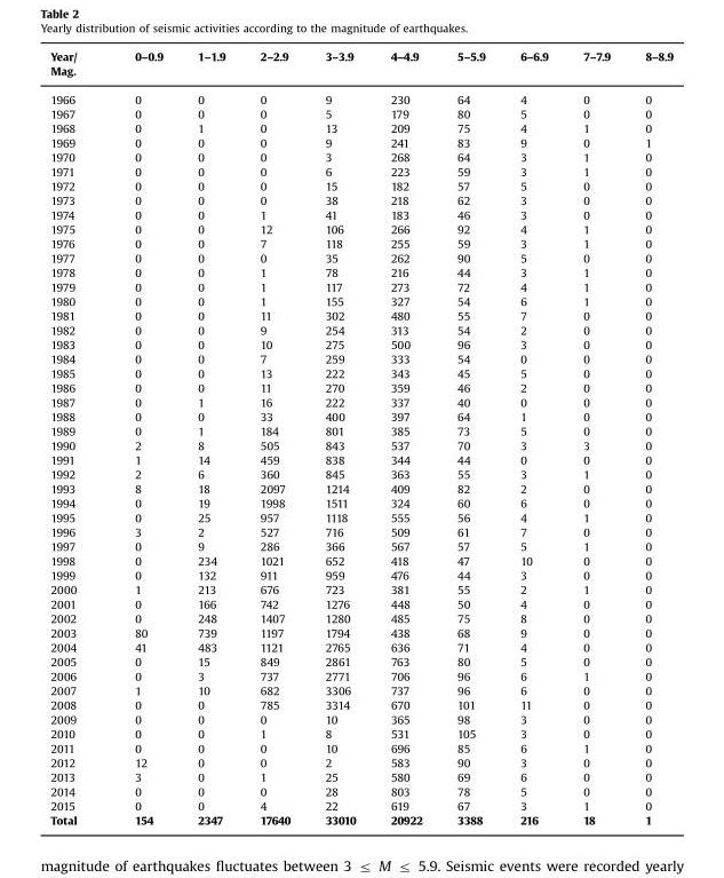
<table><thead><tr><td>Year/ Mag.</td><td>0–0.9</td><td>1–1.9</td><td>2–2.9</td><td>3–3.9</td><td>4–4.9</td><td>5–5.9</td><td>6–6.9</td><td>7–7.9</td><td>8–8.9</td></tr></thead><tbody><tr><td>1966</td><td>0</td><td>0</td><td>0</td><td>9</td><td>230</td><td>64</td><td>4</td><td>0</td><td>0</td></tr><tr><td>1967</td><td>0</td><td>0</td><td>0</td><td>5</td><td>179</td><td>80</td><td>5</td><td>0</td><td>0</td></tr><tr><td>1968</td><td>0</td><td>1</td><td>0</td><td>13</td><td>209</td><td>75</td><td>4</td><td>1</td><td>0</td></tr><tr><td>1969</td><td>0</td><td>0</td><td>0</td><td>9</td><td>241</td><td>83</td><td>9</td><td>0</td><td>1</td></tr><tr><td>1970</td><td>0</td><td>0</td><td>0</td><td>3</td><td>268</td><td>64</td><td>3</td><td>1</td><td>0</td></tr><tr><td>1971</td><td>0</td><td>0</td><td>0</td><td>6</td><td>223</td><td>59</td><td>3</td><td>1</td><td>0</td></tr><tr><td>1972</td><td>0</td><td>0</td><td>0</td><td>15</td><td>182</td><td>57</td><td>5</td><td>0</td><td>0</td></tr><tr><td>1973</td><td>0</td><td>0</td><td>0</td><td>38</td><td>218</td><td>62</td><td>3</td><td>0</td><td>0</td></tr><tr><td>1974</td><td>0</td><td>0</td><td>1</td><td>41</td><td>183</td><td>46</td><td>3</td><td>0</td><td>0</td></tr><tr><td>1975</td><td>0</td><td>0</td><td>12</td><td>106</td><td>266</td><td>92</td><td>4</td><td>1</td><td>0</td></tr><tr><td>1976</td><td>0</td><td>0</td><td>7</td><td>118</td><td>255</td><td>59</td><td>3</td><td>1</td><td>0</td></tr><tr><td>1977</td><td>0</td><td>0</td><td>0</td><td>35</td><td>262</td><td>90</td><td>5</td><td>0</td><td>0</td></tr><tr><td>1978</td><td>0</td><td>0</td><td>1</td><td>78</td><td>216</td><td>44</td><td>3</td><td>1</td><td>0</td></tr><tr><td>1979</td><td>0</td><td>0</td><td>1</td><td>117</td><td>273</td><td>72</td><td>4</td><td>1</td><td>0</td></tr><tr><td>1980</td><td>0</td><td>0</td><td>1</td><td>155</td><td>327</td><td>54</td><td>6</td><td>1</td><td>0</td></tr><tr><td>1981</td><td>0</td><td>0</td><td>11</td><td>302</td><td>480</td><td>55</td><td>7</td><td>0</td><td>0</td></tr><tr><td>1982</td><td>0</td><td>0</td><td>9</td><td>254</td><td>313</td><td>54</td><td>2</td><td>0</td><td>0</td></tr><tr><td>1983</td><td>0</td><td>0</td><td>10</td><td>275</td><td>500</td><td>96</td><td>3</td><td>0</td><td>0</td></tr><tr><td>1984</td><td>0</td><td>0</td><td>7</td><td>259</td><td>333</td><td>54</td><td>0</td><td>0</td><td>0</td></tr><tr><td>1985</td><td>0</td><td>0</td><td>13</td><td>222</td><td>343</td><td>45</td><td>5</td><td>0</td><td>0</td></tr><tr><td>1986</td><td>0</td><td>0</td><td>11</td><td>270</td><td>359</td><td>46</td><td>2</td><td>0</td><td>0</td></tr><tr><td>1987</td><td>0</td><td>1</td><td>16</td><td>222</td><td>337</td><td>40</td><td>0</td><td>0</td><td>0</td></tr><tr><td>1988</td><td>0</td><td>0</td><td>33</td><td>400</td><td>397</td><td>64</td><td>1</td><td>0</td><td>0</td></tr><tr><td>1989</td><td>0</td><td>1</td><td>184</td><td>801</td><td>385</td><td>73</td><td>5</td><td>0</td><td>0</td></tr><tr><td>1990</td><td>2</td><td>8</td><td>505</td><td>843</td><td>537</td><td>70</td><td>3</td><td>3</td><td>0</td></tr><tr><td>1991</td><td>1</td><td>14</td><td>459</td><td>838</td><td>344</td><td>44</td><td>0</td><td>0</td><td>0</td></tr><tr><td>1992</td><td>2</td><td>6</td><td>360</td><td>845</td><td>363</td><td>55</td><td>3</td><td>1</td><td>0</td></tr><tr><td>1993</td><td>8</td><td>18</td><td>2097</td><td>1214</td><td>409</td><td>82</td><td>2</td><td>0</td><td>0</td></tr><tr><td>1994</td><td>0</td><td>19</td><td>1998</td><td>1511</td><td>324</td><td>60</td><td>6</td><td>0</td><td>0</td></tr><tr><td>1995</td><td>0</td><td>25</td><td>957</td><td>1118</td><td>555</td><td>56</td><td>4</td><td>1</td><td>0</td></tr><tr><td>1996</td><td>3</td><td>2</td><td>527</td><td>716</td><td>509</td><td>61</td><td>7</td><td>0</td><td>0</td></tr><tr><td>1997</td><td>0</td><td>9</td><td>286</td><td>366</td><td>567</td><td>57</td><td>5</td><td>1</td><td>0</td></tr><tr><td>1998</td><td>0</td><td>234</td><td>1021</td><td>652</td><td>418</td><td>47</td><td>10</td><td>0</td><td>0</td></tr><tr><td>1999</td><td>0</td><td>132</td><td>911</td><td>959</td><td>476</td><td>44</td><td>3</td><td>0</td><td>0</td></tr><tr><td>2000</td><td>1</td><td>213</td><td>676</td><td>723</td><td>381</td><td>55</td><td>2</td><td>1</td><td>0</td></tr><tr><td>2001</td><td>0</td><td>166</td><td>742</td><td>1276</td><td>448</td><td>50</td><td>4</td><td>0</td><td>0</td></tr><tr><td>2002</td><td>0</td><td>248</td><td>1407</td><td>1280</td><td>485</td><td>75</td><td>8</td><td>0</td><td>0</td></tr><tr><td>2003</td><td>80</td><td>739</td><td>1197</td><td>1794</td><td>438</td><td>68</td><td>9</td><td>0</td><td>0</td></tr><tr><td>2004</td><td>41</td><td>483</td><td>1121</td><td>2765</td><td>636</td><td>71</td><td>4</td><td>0</td><td>0</td></tr><tr><td>2005</td><td>0</td><td>15</td><td>849</td><td>2861</td><td>763</td><td>80</td><td>5</td><td>0</td><td>0</td></tr><tr><td>2006</td><td>0</td><td>3</td><td>737</td><td>2771</td><td>706</td><td>96</td><td>6</td><td>1</td><td>0</td></tr><tr><td>2007</td><td>1</td><td>10</td><td>682</td><td>3306</td><td>737</td><td>96</td><td>6</td><td>0</td><td>0</td></tr><tr><td>2008</td><td>0</td><td>0</td><td>785</td><td>3314</td><td>670</td><td>101</td><td>11</td><td>0</td><td>0</td></tr><tr><td>2009</td><td>0</td><td>0</td><td>0</td><td>10</td><td>365</td><td>98</td><td>3</td><td>0</td><td>0</td></tr><tr><td>2010</td><td>0</td><td>0</td><td>1</td><td>8</td><td>531</td><td>105</td><td>3</td><td>0</td><td>0</td></tr><tr><td>2011</td><td>0</td><td>0</td><td>0</td><td>10</td><td>696</td><td>85</td><td>6</td><td>1</td><td>0</td></tr><tr><td>2012</td><td>12</td><td>0</td><td>0</td><td>2</td><td>583</td><td>90</td><td>3</td><td>0</td><td>0</td></tr><tr><td>2013</td><td>3</td><td>0</td><td>1</td><td>25</td><td>580</td><td>69</td><td>6</td><td>0</td><td>0</td></tr><tr><td>2014</td><td>0</td><td>0</td><td>0</td><td>28</td><td>803</td><td>78</td><td>5</td><td>0</td><td>0</td></tr><tr><td>2015</td><td>0</td><td>0</td><td>4</td><td>22</td><td>619</td><td>67</td><td>3</td><td>1</td><td>0</td></tr><tr><td>Total</td><td>154</td><td>2347</td><td>17640</td><td>33010</td><td>20922</td><td>3388</td><td>216</td><td>18</td><td>1</td></tr></tbody></table>